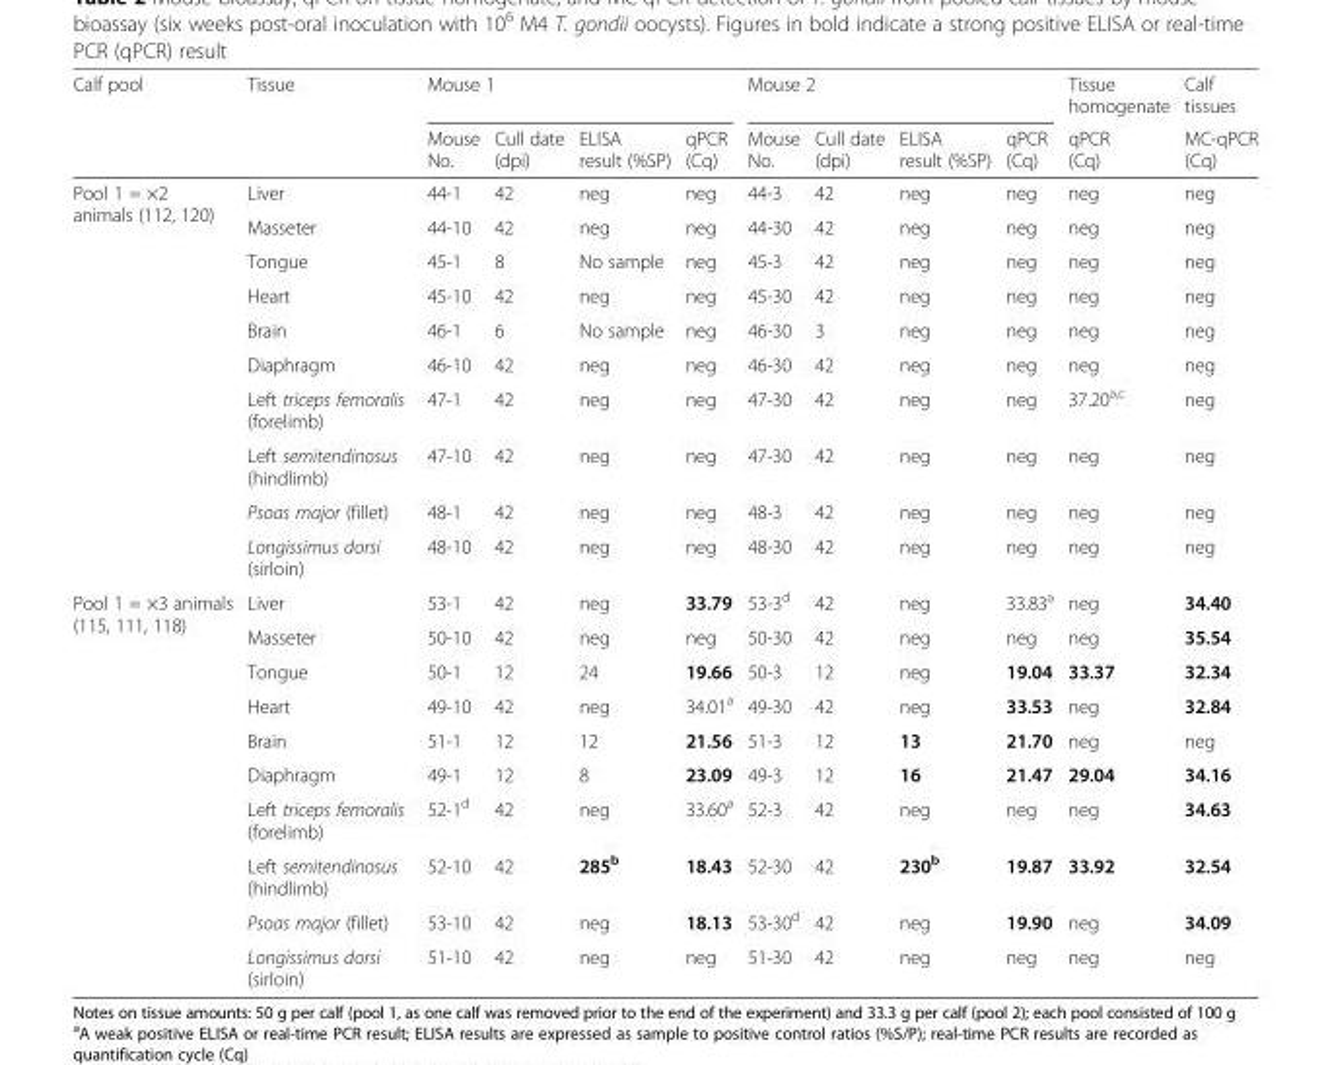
<table><thead><tr><td rowspan="2">Calf pool</td><td rowspan="2">Tissue</td><td colspan="4">Mouse 1</td><td colspan="4">Mouse 2</td><td rowspan="2">Tissue homogenate qPCR (Cq)</td><td rowspan="2">Calf tissues MC-qPCR (Cq)</td></tr><tr><td>Mouse No.</td><td>Cull date (dpi)</td><td>ELISA result (%SP)</td><td>qPCR (Cq)</td><td>Mouse No.</td><td>Cull date (dpi)</td><td>ELISA result (%SP)</td><td>qPCR (Cq)</td></tr></thead><tbody><tr><td rowspan="10">Pool 1 = ×2 animals (112, 120)</td><td>Liver</td><td>44-1</td><td>42</td><td>neg</td><td>neg</td><td>44-3</td><td>42</td><td>neg</td><td>neg</td><td>neg</td><td>neg</td></tr><tr><td>Masseter</td><td>44-10</td><td>42</td><td>neg</td><td>neg</td><td>44-30</td><td>42</td><td>neg</td><td>neg</td><td>neg</td><td>neg</td></tr><tr><td>Tongue</td><td>45-1</td><td>8</td><td>No sample</td><td>neg</td><td>45-3</td><td>42</td><td>neg</td><td>neg</td><td>neg</td><td>neg</td></tr><tr><td>Heart</td><td>45-10</td><td>42</td><td>neg</td><td>neg</td><td>45-30</td><td>42</td><td>neg</td><td>neg</td><td>neg</td><td>neg</td></tr><tr><td>Brain</td><td>46-1</td><td>6</td><td>No sample</td><td>neg</td><td>46-30</td><td>3</td><td>neg</td><td>neg</td><td>neg</td><td>neg</td></tr><tr><td>Diaphragm</td><td>46-10</td><td>42</td><td>neg</td><td>neg</td><td>46-30</td><td>42</td><td>neg</td><td>neg</td><td>neg</td><td>neg</td></tr><tr><td>Left triceps femoralis (forelimb)</td><td>47-1</td><td>42</td><td>neg</td><td>neg</td><td>47-30</td><td>42</td><td>neg</td><td>neg</td><td>37.20<sup>a,c</sup></td><td>neg</td></tr><tr><td>Left semitendinosus (hindlimb)</td><td>47-10</td><td>42</td><td>neg</td><td>neg</td><td>47-30</td><td>42</td><td>neg</td><td>neg</td><td>neg</td><td>neg</td></tr><tr><td>Psoas major (fillet)</td><td>48-1</td><td>42</td><td>neg</td><td>neg</td><td>48-3</td><td>42</td><td>neg</td><td>neg</td><td>neg</td><td>neg</td></tr><tr><td>Longissimus dorsi (sirloin)</td><td>48-10</td><td>42</td><td>neg</td><td>neg</td><td>48-30</td><td>42</td><td>neg</td><td>neg</td><td>neg</td><td>neg</td></tr><tr><td rowspan="10">Pool 1 = ×3 animals (115, 111, 118)</td><td>Liver</td><td>53-1</td><td>42</td><td>neg</td><td>33.79</td><td>53-3<sup>d</sup></td><td>42</td><td>neg</td><td>33.83<sup>a</sup></td><td>neg</td><td>34.40</td></tr><tr><td>Masseter</td><td>50-10</td><td>42</td><td>neg</td><td>neg</td><td>50-30</td><td>42</td><td>neg</td><td>neg</td><td>neg</td><td>35.54</td></tr><tr><td>Tongue</td><td>50-1</td><td>12</td><td>24</td><td>19.66</td><td>50-3</td><td>12</td><td>neg</td><td>19.04</td><td>33.37</td><td>32.34</td></tr><tr><td>Heart</td><td>49-10</td><td>42</td><td>neg</td><td>34.01<sup>a</sup></td><td>49-30</td><td>42</td><td>neg</td><td>33.53</td><td>neg</td><td>32.84</td></tr><tr><td>Brain</td><td>51-1</td><td>12</td><td>12</td><td>21.56</td><td>51-3</td><td>12</td><td>13</td><td>21.70</td><td>neg</td><td>neg</td></tr><tr><td>Diaphragm</td><td>49-1</td><td>12</td><td>8</td><td>23.09</td><td>49-3</td><td>12</td><td>16</td><td>21.47</td><td>29.04</td><td>34.16</td></tr><tr><td>Left triceps femoralis (forelimb)</td><td>52-1<sup>d</sup></td><td>42</td><td>neg</td><td>33.60<sup>a</sup></td><td>52-3</td><td>42</td><td>neg</td><td>neg</td><td>neg</td><td>34.63</td></tr><tr><td>Left semitendinosus (hindlimb)</td><td>52-10</td><td>42</td><td>285<sup>b</sup></td><td>18.43</td><td>52-30</td><td>42</td><td>230<sup>b</sup></td><td>19.87</td><td>33.92</td><td>32.54</td></tr><tr><td>Psoas major (fillet)</td><td>53-10</td><td>42</td><td>neg</td><td>18.13</td><td>53-30<sup>d</sup></td><td>42</td><td>neg</td><td>19.90</td><td>neg</td><td>34.09</td></tr><tr><td>Longissimus dorsi (sirloin)</td><td>51-10</td><td>42</td><td>neg</td><td>neg</td><td>51-30</td><td>42</td><td>neg</td><td>neg</td><td>neg</td><td>neg</td></tr></tbody></table>